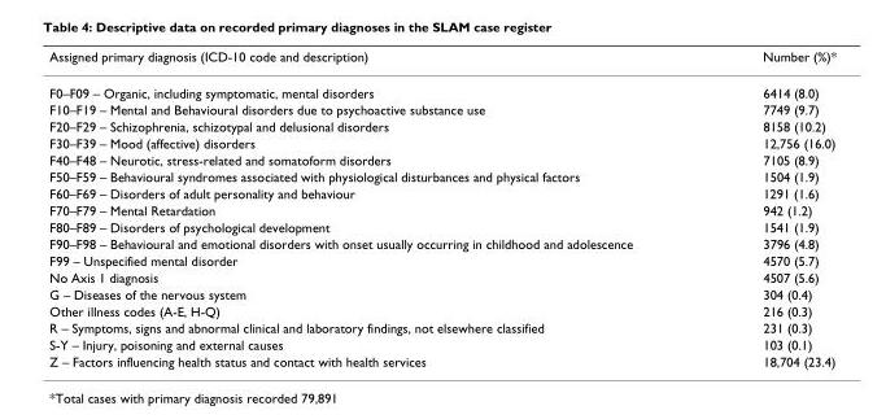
<table><thead><tr><td>Assigned primary diagnosis (ICD-10 code and description)</td><td>Number (%)*</td></tr></thead><tbody><tr><td>F0–F09 – Organic, including symptomatic, mental disorders</td><td>6414 (8.0)</td></tr><tr><td>F10–F19 – Mental and Behavioural disorders due to psychoactive substance use</td><td>7749 (9.7)</td></tr><tr><td>F20–F29 – Schizophrenia, schizotypal and delusional disorders</td><td>8158 (10.2)</td></tr><tr><td>F30–F39 – Mood (affective) disorders</td><td>12,756 (16.0)</td></tr><tr><td>F40–F48 – Neurotic, stress-related and somatoform disorders</td><td>7105 (8.9)</td></tr><tr><td>F50–F59 – Behavioural syndromes associated with physiological disturbances and physical factors</td><td>1504 (1.9)</td></tr><tr><td>F60–F69 – Disorders of adult personality and behaviour</td><td>1291 (1.6)</td></tr><tr><td>F70–F79 – Mental Retardation</td><td>942 (1.2)</td></tr><tr><td>F80–F89 – Disorders of psychological development</td><td>1541 (1.9)</td></tr><tr><td>F90–F98 – Behavioural and emotional disorders with onset usually occurring in childhood and adolescence</td><td>3796 (4.8)</td></tr><tr><td>F99 – Unspecified mental disorder</td><td>4570 (5.7)</td></tr><tr><td>No Axis 1 diagnosis</td><td>4507 (5.6)</td></tr><tr><td>G – Diseases of the nervous system</td><td>304 (0.4)</td></tr><tr><td>Other illness codes (A-E, H-Q)</td><td>216 (0.3)</td></tr><tr><td>R – Symptoms, signs and abnormal clinical and laboratory findings, not elsewhere classified</td><td>231 (0.3)</td></tr><tr><td>S-Y – Injury, poisoning and external causes</td><td>103 (0.1)</td></tr><tr><td>Z – Factors influencing health status and contact with health services</td><td>18,704 (23.4)</td></tr></tbody></table>